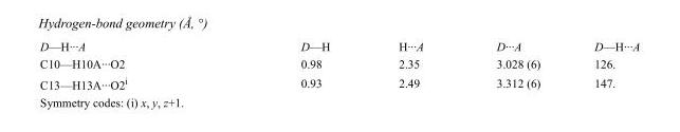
<table><tbody><tr><td>D—H···A</td><td>D—H</td><td>H···A</td><td>D···A</td><td>D—H···A</td></tr><tr><td>C10—H10A···O2</td><td>0.98</td><td>2.35</td><td>3.028 (6)</td><td>126.</td></tr><tr><td>C13—H13A···O2<sup>i</sup></td><td>0.93</td><td>2.49</td><td>3.312 (6)</td><td>147.</td></tr></tbody></table>